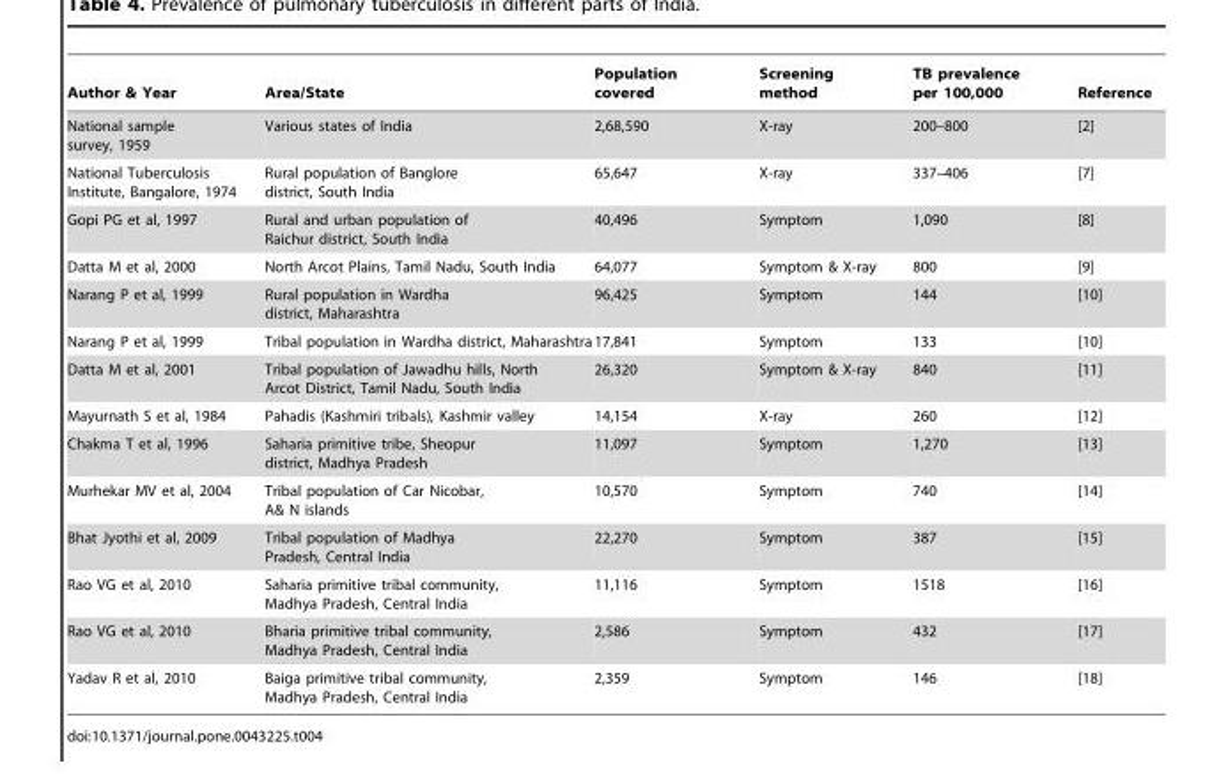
<table><thead><tr><td>Author &amp; Year</td><td>Area/State</td><td>Population covered</td><td>Screening method</td><td>TB prevalence per 100,000</td><td>Reference</td></tr></thead><tbody><tr><td>National sample survey, 1959</td><td>Various states of India</td><td>2,68,590</td><td>X-ray</td><td>200–800</td><td>[2]</td></tr><tr><td>National Tuberculosis Institute, Bangalore, 1974</td><td>Rural population of Banglore district, South India</td><td>65,647</td><td>X-ray</td><td>337–406</td><td>[7]</td></tr><tr><td>Gopi PG et al, 1997</td><td>Rural and urban population of Raichur district, South India</td><td>40,496</td><td>Symptom</td><td>1,090</td><td>[8]</td></tr><tr><td>Datta M et al, 2000</td><td>North Arcot Plains, Tamil Nadu, South India</td><td>64,077</td><td>Symptom &amp; X-ray</td><td>800</td><td>[9]</td></tr><tr><td>Narang P et al, 1999</td><td>Rural population in Wardha district, Maharashtra</td><td>96,425</td><td>Symptom</td><td>144</td><td>[10]</td></tr><tr><td>Narang P et al, 1999</td><td>Tribal population in Wardha district, Maharashtra</td><td>17,841</td><td>Symptom</td><td>133</td><td>[10]</td></tr><tr><td>Datta M et al, 2001</td><td>Tribal population of Jawadhu hills, North Arcot District, Tamil Nadu, South India</td><td>26,320</td><td>Symptom &amp; X-ray</td><td>840</td><td>[11]</td></tr><tr><td>Mayurnath S et al, 1984</td><td>Pahadis (Kashmiri tribals), Kashmir valley</td><td>14,154</td><td>X-ray</td><td>260</td><td>[12]</td></tr><tr><td>Chakma T et al, 1996</td><td>Saharia primitive tribe, Sheopur district, Madhya Pradesh</td><td>11,097</td><td>Symptom</td><td>1,270</td><td>[13]</td></tr><tr><td>Murhekar MV et al, 2004</td><td>Tribal population of Car Nicobar, A&amp; N islands</td><td>10,570</td><td>Symptom</td><td>740</td><td>[14]</td></tr><tr><td>Bhat Jyothi et al, 2009</td><td>Tribal population of Madhya Pradesh, Central India</td><td>22,270</td><td>Symptom</td><td>387</td><td>[15]</td></tr><tr><td>Rao VG et al, 2010</td><td>Saharia primitive tribal community, Madhya Pradesh, Central India</td><td>11,116</td><td>Symptom</td><td>1518</td><td>[16]</td></tr><tr><td>Rao VG et al, 2010</td><td>Bharia primitive tribal community, Madhya Pradesh, Central India</td><td>2,586</td><td>Symptom</td><td>432</td><td>[17]</td></tr><tr><td>Yadav R et al, 2010</td><td>Baiga primitive tribal community, Madhya Pradesh, Central India</td><td>2,359</td><td>Symptom</td><td>146</td><td>[18]</td></tr></tbody></table>